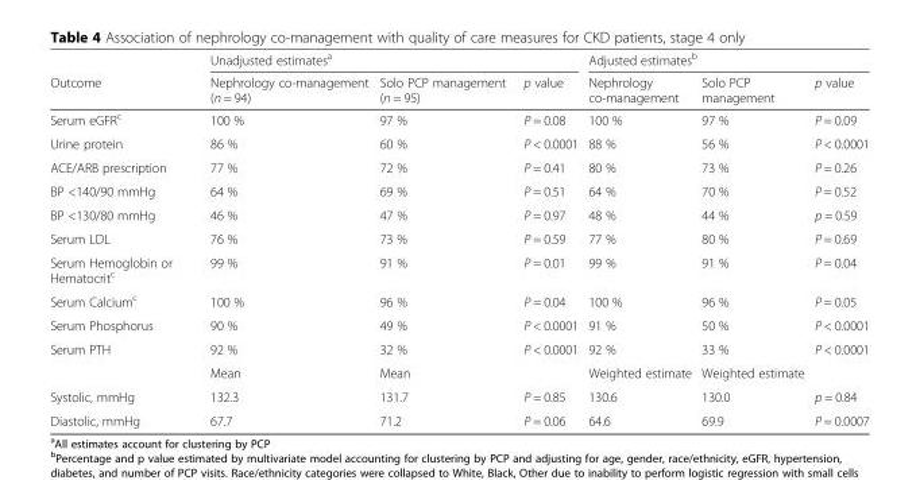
<table><thead><tr><td rowspan="2">Outcome</td><td colspan="3">Unadjusted estimates<sup>a</sup></td><td colspan="3">Adjusted estimates<sup>b</sup></td></tr><tr><td>Nephrology co-management (n = 94)</td><td>Solo PCP management (n = 95)</td><td>p value</td><td>Nephrology co-management</td><td>Solo PCP management</td><td>p value</td></tr></thead><tbody><tr><td>Serum eGFR<sup>c</sup></td><td>100 %</td><td>97 %</td><td>P = 0.08</td><td>100 %</td><td>97 %</td><td>P = 0.09</td></tr><tr><td>Urine protein</td><td>86 %</td><td>60 %</td><td>P &lt; 0.0001</td><td>88 %</td><td>56 %</td><td>P &lt; 0.0001</td></tr><tr><td>ACE/ARB prescription</td><td>77 %</td><td>72 %</td><td>P = 0.41</td><td>80 %</td><td>73 %</td><td>P = 0.26</td></tr><tr><td>BP &lt;140/90 mmHg</td><td>64 %</td><td>69 %</td><td>P = 0.51</td><td>64 %</td><td>70 %</td><td>P = 0.52</td></tr><tr><td>BP &lt;130/80 mmHg</td><td>46 %</td><td>47 %</td><td>P = 0.97</td><td>48 %</td><td>44 %</td><td>p = 0.59</td></tr><tr><td>Serum LDL</td><td>76 %</td><td>73 %</td><td>P = 0.59</td><td>77 %</td><td>80 %</td><td>P = 0.69</td></tr><tr><td>Serum Hemoglobin or Hematocrit<sup>c</sup></td><td>99 %</td><td>91 %</td><td>P = 0.01</td><td>99 %</td><td>91 %</td><td>P = 0.04</td></tr><tr><td>Serum Calcium<sup>c</sup></td><td>100 %</td><td>96 %</td><td>P = 0.04</td><td>100 %</td><td>96 %</td><td>P = 0.05</td></tr><tr><td>Serum Phosphorus</td><td>90 %</td><td>49 %</td><td>P &lt; 0.0001</td><td>91 %</td><td>50 %</td><td>P &lt; 0.0001</td></tr><tr><td rowspan="2">Serum PTH</td><td>92 %</td><td>32 %</td><td>P &lt; 0.0001</td><td>92 %</td><td>33 %</td><td>P &lt; 0.0001</td></tr><tr><td>Mean</td><td>Mean</td><td></td><td>Weighted estimate</td><td>Weighted estimate</td><td></td></tr><tr><td>Systolic, mmHg</td><td>132.3</td><td>131.7</td><td>P = 0.85</td><td>130.6</td><td>130.0</td><td>p = 0.84</td></tr><tr><td>Diastolic, mmHg</td><td>67.7</td><td>71.2</td><td>P = 0.06</td><td>64.6</td><td>69.9</td><td>P = 0.0007</td></tr></tbody></table>